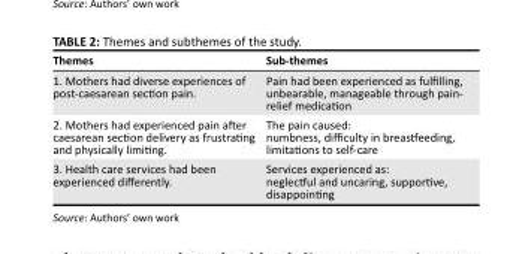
<table><thead><tr><td>Themes</td><td>Sub-themes</td></tr></thead><tbody><tr><td>1. Mothers had diverse experiences of post-caesarean section pain.</td><td>Pain had been experienced as fulfilling, unbearable, manageable through pain- relief medication</td></tr><tr><td>2. Mothers had experienced pain after caesarean section delivery as frustrating and physically limiting.</td><td>The pain caused: numbness, difficulty in breastfeeding, limitations to self-care</td></tr><tr><td>3. Health care services had been experienced differently.</td><td>Services experienced as: neglectful and uncaring, supportive, disappointing</td></tr></tbody></table>